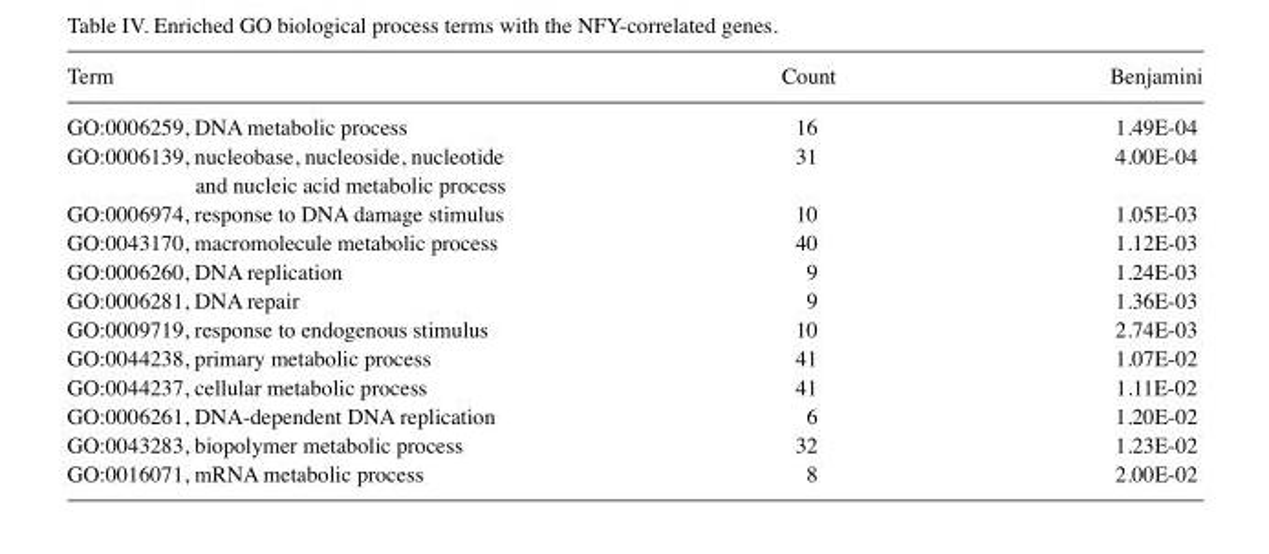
<table><thead><tr><td>Term</td><td>Count</td><td>Benjamini</td></tr></thead><tbody><tr><td>GO:0006259, DNA metabolic process</td><td>16</td><td>1.49E-04</td></tr><tr><td>GO:0006139, nucleobase, nucleoside, nucleotide and nucleic acid metabolic process</td><td>31</td><td>4.00E-04</td></tr><tr><td>GO:0006974, response to DNA damage stimulus</td><td>10</td><td>1.05E-03</td></tr><tr><td>GO:0043170, macromolecule metabolic process</td><td>40</td><td>1.12E-03</td></tr><tr><td>GO:0006260, DNA replication</td><td>9</td><td>1.24E-03</td></tr><tr><td>GO:0006281, DNA repair</td><td>9</td><td>1.36E-03</td></tr><tr><td>GO:0009719, response to endogenous stimulus</td><td>10</td><td>2.74E-03</td></tr><tr><td>GO:0044238, primary metabolic process</td><td>41</td><td>1.07E-02</td></tr><tr><td>GO:0044237, cellular metabolic process</td><td>41</td><td>1.11E-02</td></tr><tr><td>GO:0006261, DNA-dependent DNA replication</td><td>6</td><td>1.20E-02</td></tr><tr><td>GO:0043283, biopolymer metabolic process</td><td>32</td><td>1.23E-02</td></tr><tr><td>GO:0016071, mRNA metabolic process</td><td>8</td><td>2.00E-02</td></tr></tbody></table>